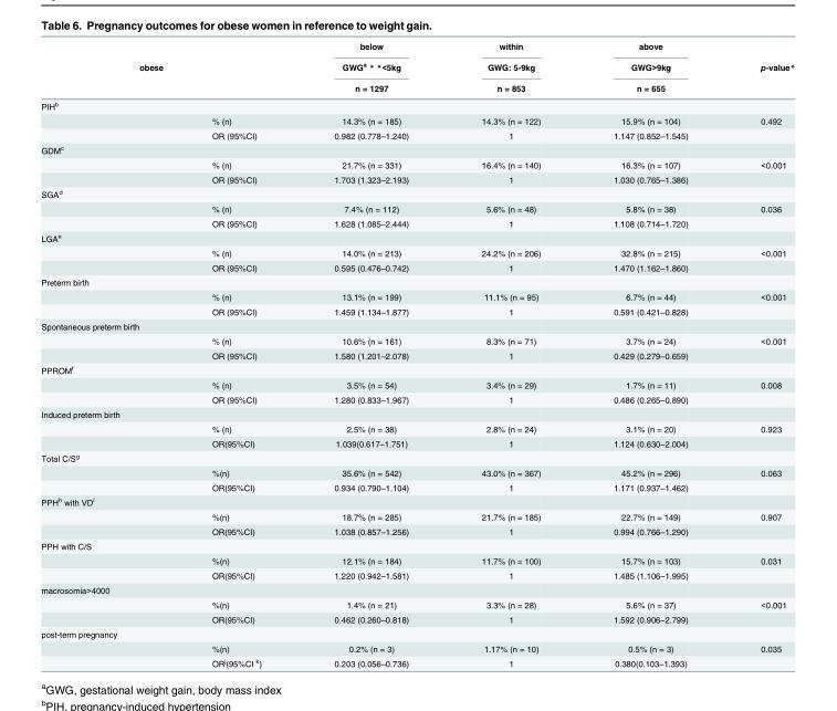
<table><thead><tr><td></td><td></td><td rowspan="3">below GWG<sup>a</sup> * *&lt;5kg n = 1297</td><td rowspan="3">within GWG: 5-9kg n = 853</td><td rowspan="3">above GWG&gt;9kg n = 655</td><td rowspan="3">p-value*</td></tr><tr><td colspan="2">obese</td></tr><tr><td></td><td></td></tr></thead><tbody><tr><td colspan="6">PIH<sup>b</sup></td></tr><tr><td></td><td>% (n)</td><td>14.3% (n = 185)</td><td>14.3% (n = 122)</td><td>15.9% (n = 104)</td><td>0.492</td></tr><tr><td></td><td>OR (95%CI)</td><td>0.982 (0.778–1.240)</td><td>1</td><td>1.147 (0.852–1.545)</td><td></td></tr><tr><td colspan="6">GDM<sup>c</sup></td></tr><tr><td></td><td>% (n)</td><td>21.7% (n = 331)</td><td>16.4% (n = 140)</td><td>16.3% (n = 107)</td><td>&lt;0.001</td></tr><tr><td></td><td>OR (95%CI)</td><td>1.703 (1.323–2.193)</td><td>1</td><td>1.030 (0.765–1.386)</td><td></td></tr><tr><td colspan="6">SGA<sup>d</sup></td></tr><tr><td></td><td>% (n)</td><td>7.4% (n = 112)</td><td>5.6% (n = 48)</td><td>5.8% (n = 38)</td><td>0.036</td></tr><tr><td></td><td>OR (95%CI)</td><td>1.628 (1.085–2.444)</td><td>1</td><td>1.108 (0.714–1.720)</td><td></td></tr><tr><td colspan="6">LGA<sup>e</sup></td></tr><tr><td></td><td>% (n)</td><td>14.0% (n = 213)</td><td>24.2% (n = 206)</td><td>32.8% (n = 215)</td><td>&lt;0.001</td></tr><tr><td></td><td>OR (95%CI)</td><td>0.595 (0.476–0.742)</td><td>1</td><td>1.470 (1.162–1.860)</td><td></td></tr><tr><td colspan="6">Preterm birth</td></tr><tr><td></td><td>% (n)</td><td>13.1% (n = 199)</td><td>11.1% (n = 95)</td><td>6.7% (n = 44)</td><td>&lt;0.001</td></tr><tr><td></td><td>OR (95%CI)</td><td>1.459 (1.134–1.877)</td><td>1</td><td>0.591 (0.421–0.828)</td><td></td></tr><tr><td colspan="6">Spontaneous preterm birth</td></tr><tr><td></td><td>% (n)</td><td>10.6% (n = 161)</td><td>8.3% (n = 71)</td><td>3.7% (n = 24)</td><td>&lt;0.001</td></tr><tr><td></td><td>OR (95%CI)</td><td>1.580 (1.201–2.078)</td><td>1</td><td>0.429 (0.279–0.659)</td><td></td></tr><tr><td colspan="6">PPROM<sup>f</sup></td></tr><tr><td></td><td>% (n)</td><td>3.5% (n = 54)</td><td>3.4% (n = 29)</td><td>1.7% (n = 11)</td><td>0.008</td></tr><tr><td></td><td>OR (95%CI)</td><td>1.280 (0.833–1.967)</td><td>1</td><td>0.486 (0.265–0.890)</td><td></td></tr><tr><td colspan="6">Induced preterm birth</td></tr><tr><td></td><td>% (n)</td><td>2.5% (n = 38)</td><td>2.8% (n = 24)</td><td>3.1% (n = 20)</td><td>0.923</td></tr><tr><td></td><td>OR(95%CI)</td><td>1.039(0.617–1.751)</td><td>1</td><td>1.124 (0.630–2.004)</td><td></td></tr><tr><td colspan="6">Total C/S<sup>g</sup></td></tr><tr><td></td><td>%(n)</td><td>35.6% (n = 542)</td><td>43.0% (n = 367)</td><td>45.2% (n = 296)</td><td>0.063</td></tr><tr><td></td><td>OR(95%CI)</td><td>0.934 (0.790–1.104)</td><td>1</td><td>1.171 (0.937–1.462)</td><td></td></tr><tr><td colspan="6">PPH<sup>h</sup> with VD<sup>i</sup></td></tr><tr><td></td><td>%(n)</td><td>18.7% (n = 285)</td><td>21.7% (n = 185)</td><td>22.7% (n = 149)</td><td>0.907</td></tr><tr><td></td><td>OR(95%CI)</td><td>1.038 (0.857–1.256)</td><td>1</td><td>0.994 (0.766–1.290)</td><td></td></tr><tr><td colspan="6">PPH with C/S</td></tr><tr><td></td><td>%(n)</td><td>12.1% (n = 184)</td><td>11.7% (n = 100)</td><td>15.7% (n = 103)</td><td>0.031</td></tr><tr><td></td><td>OR(95%CI)</td><td>1.220 (0.942–1.581)</td><td>1</td><td>1.485 (1.106–1.995)</td><td></td></tr><tr><td colspan="6">macrosomia&gt;4000</td></tr><tr><td></td><td>%(n)</td><td>1.4% (n = 21)</td><td>3.3% (n = 28)</td><td>5.6% (n = 37)</td><td>&lt;0.001</td></tr><tr><td></td><td>OR(95%CI)</td><td>0.462 (0.260–0.818)</td><td>1</td><td>1.592 (0.906–2.799)</td><td></td></tr><tr><td colspan="6">post-term pregnancy</td></tr><tr><td></td><td>%(n)</td><td>0.2% (n = 3)</td><td>1.17% (n = 10)</td><td>0.5% (n = 3)</td><td>0.035</td></tr><tr><td></td><td>OR<sup>j</sup>(95%CI <sup>k</sup>)</td><td>0.203 (0.056–0.736)</td><td>1</td><td>0.380(0.103–1.393)</td><td></td></tr></tbody></table>